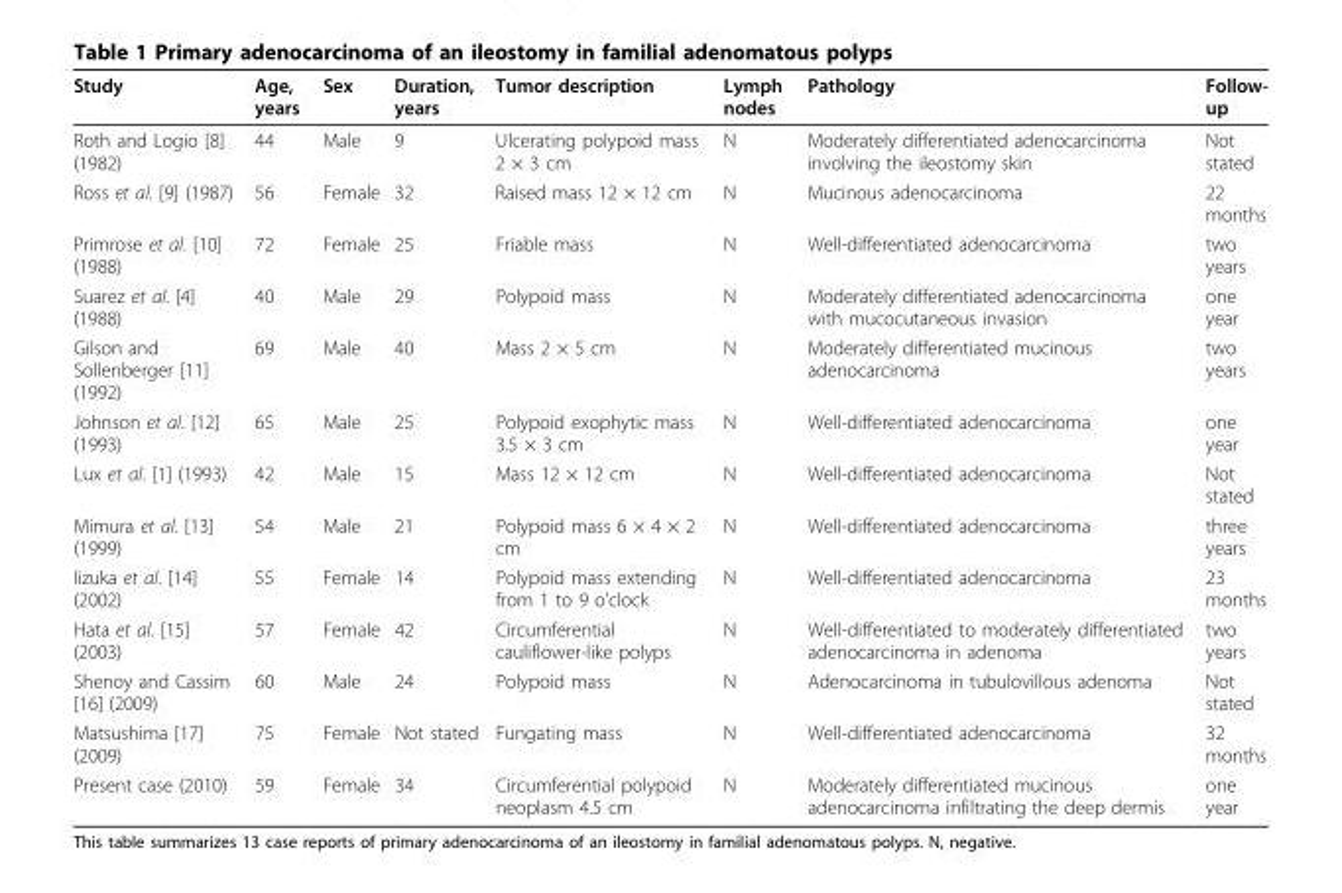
<table><thead><tr><td>Study</td><td>Age, years</td><td>Sex</td><td>Duration, years</td><td>Tumor description</td><td>Lymph nodes</td><td>Pathology</td><td>Follow- up</td></tr></thead><tbody><tr><td>Roth and Logio [8] (1982)</td><td>44</td><td>Male</td><td>9</td><td>Ulcerating polypoid mass 2 × 3 cm</td><td>N</td><td>Moderately differentiated adenocarcinoma involving the ileostomy skin</td><td>Not stated</td></tr><tr><td>Ross et al. [9] (1987)</td><td>56</td><td>Female</td><td>32</td><td>Raised mass 12 × 12 cm</td><td>N</td><td>Mucinous adenocarcinoma</td><td>22 months</td></tr><tr><td>Primrose et al. [10] (1988)</td><td>72</td><td>Female</td><td>25</td><td>Friable mass</td><td>N</td><td>Well-differentiated adenocarcinoma</td><td>two years</td></tr><tr><td>Suarez et al. [4] (1988)</td><td>40</td><td>Male</td><td>29</td><td>Polypoid mass</td><td>N</td><td>Moderately differentiated adenocarcinoma with mucocutaneous invasion</td><td>one year</td></tr><tr><td>Gilson and Sollenberger [11] (1992)</td><td>69</td><td>Male</td><td>40</td><td>Mass 2 × 5 cm</td><td>N</td><td>Moderately differentiated mucinous adenocarcinoma</td><td>two years</td></tr><tr><td>Johnson et al. [12] (1993)</td><td>65</td><td>Male</td><td>25</td><td>Polypoid exophytic mass 3.5 × 3 cm</td><td>N</td><td>Well-differentiated adenocarcinoma</td><td>one year</td></tr><tr><td>Lux et al. [1] (1993)</td><td>42</td><td>Male</td><td>15</td><td>Mass 12 × 12 cm</td><td>N</td><td>Well-differentiated adenocarcinoma</td><td>Not stated</td></tr><tr><td>Mimura et al. [13] (1999)</td><td>54</td><td>Male</td><td>21</td><td>Polypoid mass 6 × 4 × 2 cm</td><td>N</td><td>Well-differentiated adenocarcinoma</td><td>three years</td></tr><tr><td>Iizuka et al. [14] (2002)</td><td>55</td><td>Female</td><td>14</td><td>Polypoid mass extending from 1 to 9 o’clock</td><td>N</td><td>Well-differentiated adenocarcinoma</td><td>23 months</td></tr><tr><td>Hata et al. [15] (2003)</td><td>57</td><td>Female</td><td>42</td><td>Circumferential cauliflower-like polyps</td><td>N</td><td>Well-differentiated to moderately differentiated adenocarcinoma in adenoma</td><td>two years</td></tr><tr><td>Shenoy and Cassim [16] (2009)</td><td>60</td><td>Male</td><td>24</td><td>Polypoid mass</td><td>N</td><td>Adenocarcinoma in tubulovillous adenoma</td><td>Not stated</td></tr><tr><td>Matsushima [17] (2009)</td><td>75</td><td>Female</td><td>Not stated</td><td>Fungating mass</td><td>N</td><td>Well-differentiated adenocarcinoma</td><td>32 months</td></tr><tr><td>Present case (2010)</td><td>59</td><td>Female</td><td>34</td><td>Circumferential polypoid neoplasm 4.5 cm</td><td>N</td><td>Moderately differentiated mucinous adenocarcinoma infiltrating the deep dermis</td><td>one year</td></tr></tbody></table>